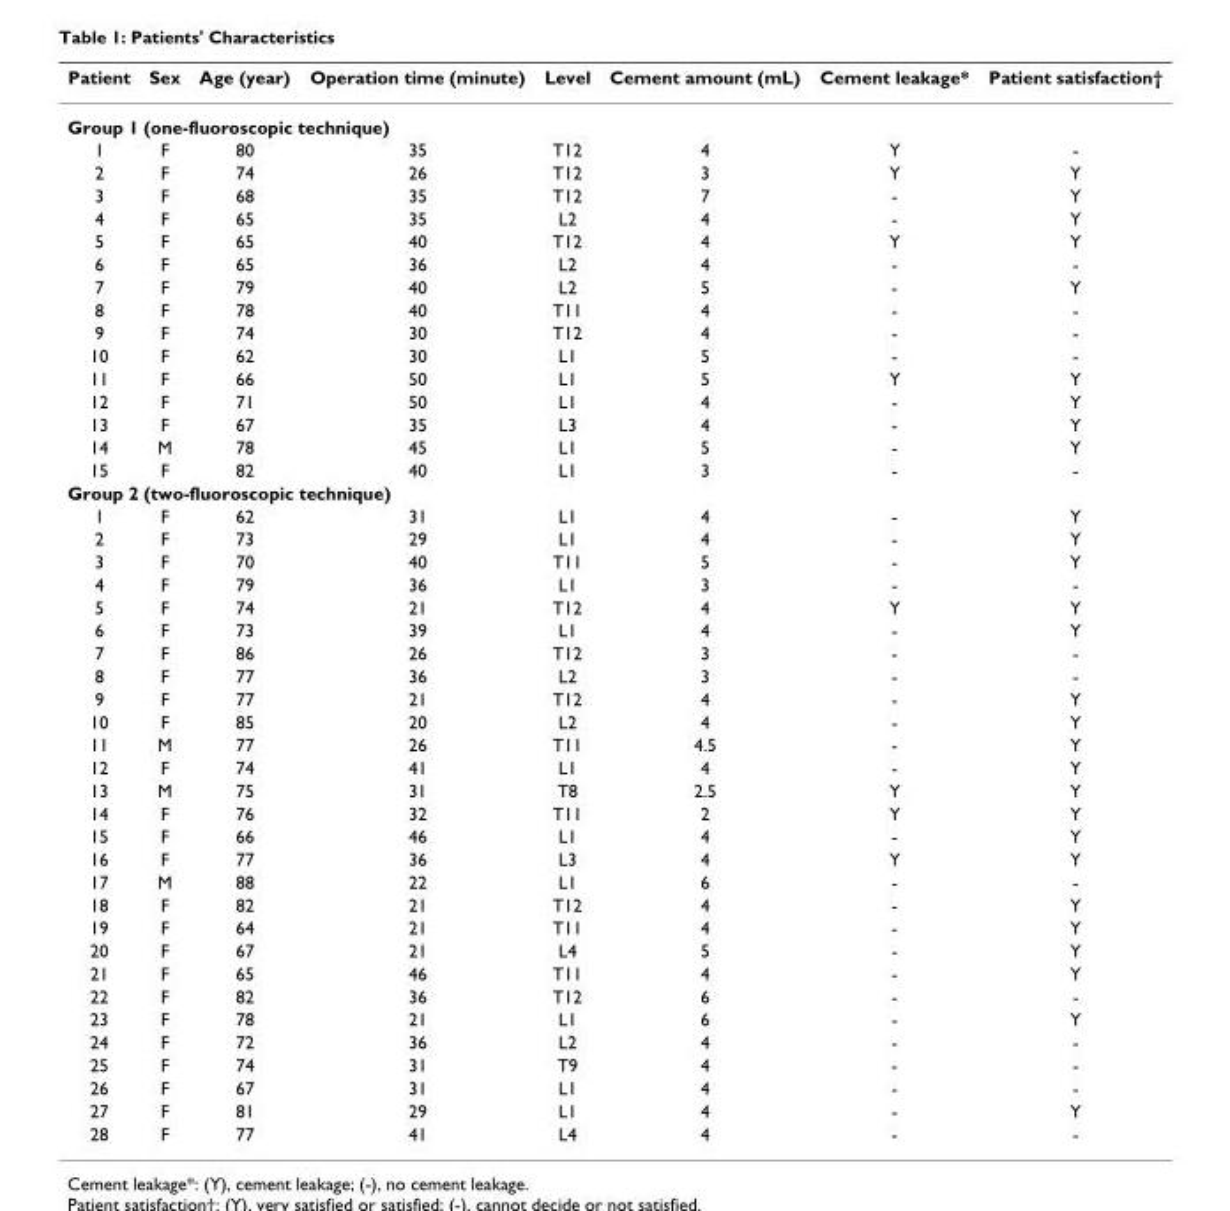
<table><thead><tr><td>Patient</td><td>Sex</td><td>Age (year)</td><td>Operation time (minute)</td><td>Level</td><td>Cement amount (mL)</td><td>Cement leakage*</td><td>Patient satisfaction†</td></tr></thead><tbody><tr><td colspan="8">Group 1 (one-fluoroscopic technique)</td></tr><tr><td>1</td><td>F</td><td>80</td><td>35</td><td>T12</td><td>4</td><td>Y</td><td>-</td></tr><tr><td>2</td><td>F</td><td>74</td><td>26</td><td>T12</td><td>3</td><td>Y</td><td>Y</td></tr><tr><td>3</td><td>F</td><td>68</td><td>35</td><td>T12</td><td>7</td><td>-</td><td>Y</td></tr><tr><td>4</td><td>F</td><td>65</td><td>35</td><td>L2</td><td>4</td><td>-</td><td>Y</td></tr><tr><td>5</td><td>F</td><td>65</td><td>40</td><td>T12</td><td>4</td><td>Y</td><td>Y</td></tr><tr><td>6</td><td>F</td><td>65</td><td>36</td><td>L2</td><td>4</td><td>-</td><td>-</td></tr><tr><td>7</td><td>F</td><td>79</td><td>40</td><td>L2</td><td>5</td><td>-</td><td>Y</td></tr><tr><td>8</td><td>F</td><td>78</td><td>40</td><td>T11</td><td>4</td><td>-</td><td>-</td></tr><tr><td>9</td><td>F</td><td>74</td><td>30</td><td>T12</td><td>4</td><td>-</td><td>-</td></tr><tr><td>10</td><td>F</td><td>62</td><td>30</td><td>L1</td><td>5</td><td>-</td><td>-</td></tr><tr><td>11</td><td>F</td><td>66</td><td>50</td><td>L1</td><td>5</td><td>Y</td><td>Y</td></tr><tr><td>12</td><td>F</td><td>71</td><td>50</td><td>L1</td><td>4</td><td>-</td><td>Y</td></tr><tr><td>13</td><td>F</td><td>67</td><td>35</td><td>L3</td><td>4</td><td>-</td><td>Y</td></tr><tr><td>14</td><td>M</td><td>78</td><td>45</td><td>L1</td><td>5</td><td>-</td><td>Y</td></tr><tr><td>15</td><td>F</td><td>82</td><td>40</td><td>L1</td><td>3</td><td>-</td><td>-</td></tr><tr><td colspan="8">Group 2 (two-fluoroscopic technique)</td></tr><tr><td>1</td><td>F</td><td>62</td><td>31</td><td>L1</td><td>4</td><td>-</td><td>Y</td></tr><tr><td>2</td><td>F</td><td>73</td><td>29</td><td>L1</td><td>4</td><td>-</td><td>Y</td></tr><tr><td>3</td><td>F</td><td>70</td><td>40</td><td>T11</td><td>5</td><td>-</td><td>Y</td></tr><tr><td>4</td><td>F</td><td>79</td><td>36</td><td>L1</td><td>3</td><td>-</td><td>-</td></tr><tr><td>5</td><td>F</td><td>74</td><td>21</td><td>T12</td><td>4</td><td>Y</td><td>Y</td></tr><tr><td>6</td><td>F</td><td>73</td><td>39</td><td>L1</td><td>4</td><td>-</td><td>Y</td></tr><tr><td>7</td><td>F</td><td>86</td><td>26</td><td>T12</td><td>3</td><td>-</td><td>-</td></tr><tr><td>8</td><td>F</td><td>77</td><td>36</td><td>L2</td><td>3</td><td>-</td><td>-</td></tr><tr><td>9</td><td>F</td><td>77</td><td>21</td><td>T12</td><td>4</td><td>-</td><td>Y</td></tr><tr><td>10</td><td>F</td><td>85</td><td>20</td><td>L2</td><td>4</td><td>-</td><td>Y</td></tr><tr><td>11</td><td>M</td><td>77</td><td>26</td><td>T11</td><td>4.5</td><td>-</td><td>Y</td></tr><tr><td>12</td><td>F</td><td>74</td><td>41</td><td>L1</td><td>4</td><td>-</td><td>Y</td></tr><tr><td>13</td><td>M</td><td>75</td><td>31</td><td>T8</td><td>2.5</td><td>Y</td><td>Y</td></tr><tr><td>14</td><td>F</td><td>76</td><td>32</td><td>T11</td><td>2</td><td>Y</td><td>Y</td></tr><tr><td>15</td><td>F</td><td>66</td><td>46</td><td>L1</td><td>4</td><td>-</td><td>Y</td></tr><tr><td>16</td><td>F</td><td>77</td><td>36</td><td>L3</td><td>4</td><td>Y</td><td>Y</td></tr><tr><td>17</td><td>M</td><td>88</td><td>22</td><td>L1</td><td>6</td><td>-</td><td>-</td></tr><tr><td>18</td><td>F</td><td>82</td><td>21</td><td>T12</td><td>4</td><td>-</td><td>Y</td></tr><tr><td>19</td><td>F</td><td>64</td><td>21</td><td>T11</td><td>4</td><td>-</td><td>Y</td></tr><tr><td>20</td><td>F</td><td>67</td><td>21</td><td>L4</td><td>5</td><td>-</td><td>Y</td></tr><tr><td>21</td><td>F</td><td>65</td><td>46</td><td>T11</td><td>4</td><td>-</td><td>Y</td></tr><tr><td>22</td><td>F</td><td>82</td><td>36</td><td>T12</td><td>6</td><td>-</td><td>-</td></tr><tr><td>23</td><td>F</td><td>78</td><td>21</td><td>L1</td><td>6</td><td>-</td><td>Y</td></tr><tr><td>24</td><td>F</td><td>72</td><td>36</td><td>L2</td><td>4</td><td>-</td><td>-</td></tr><tr><td>25</td><td>F</td><td>74</td><td>31</td><td>T9</td><td>4</td><td>-</td><td>-</td></tr><tr><td>26</td><td>F</td><td>67</td><td>31</td><td>L1</td><td>4</td><td>-</td><td>-</td></tr><tr><td>27</td><td>F</td><td>81</td><td>29</td><td>L1</td><td>4</td><td>-</td><td>Y</td></tr><tr><td>28</td><td>F</td><td>77</td><td>41</td><td>L4</td><td>4</td><td>-</td><td>-</td></tr></tbody></table>